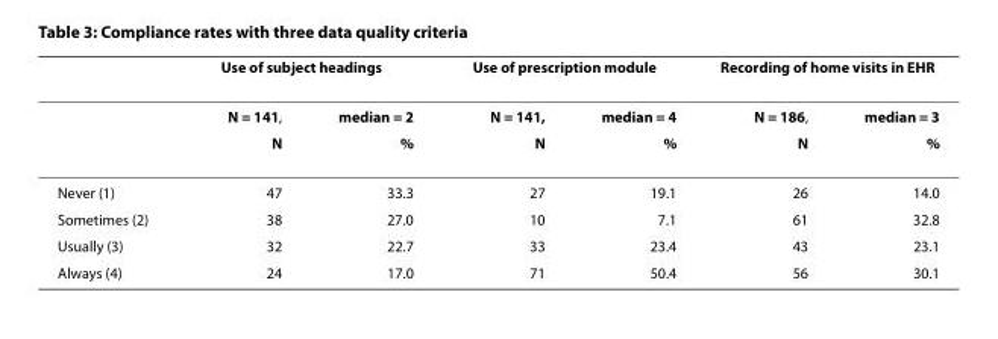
<table><thead><tr><td rowspan="2"></td><td colspan="2">Use of subject headings</td><td colspan="2">Use of prescription module</td><td colspan="2">Recording of home visits in EHR</td></tr><tr><td>N = 141,</td><td>median = 2</td><td>N = 141,</td><td>median = 4</td><td>N = 186,</td><td>median = 3</td></tr></thead><tbody><tr><td></td><td>N</td><td>%</td><td>N</td><td>%</td><td>N</td><td>%</td></tr><tr><td>Never (1)</td><td>47</td><td>33.3</td><td>27</td><td>19.1</td><td>26</td><td>14.0</td></tr><tr><td>Sometimes (2)</td><td>38</td><td>27.0</td><td>10</td><td>7.1</td><td>61</td><td>32.8</td></tr><tr><td>Usually (3)</td><td>32</td><td>22.7</td><td>33</td><td>23.4</td><td>43</td><td>23.1</td></tr><tr><td>Always (4)</td><td>24</td><td>17.0</td><td>71</td><td>50.4</td><td>56</td><td>30.1</td></tr></tbody></table>